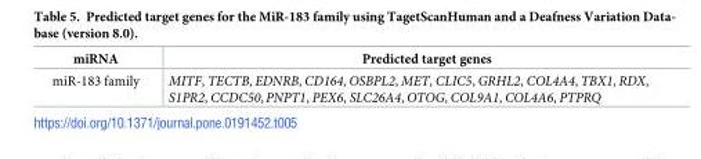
<table><thead><tr><td>miRNA</td><td>Predicted target genes</td></tr></thead><tbody><tr><td>miR-183 family</td><td>MITF, TECTB, EDNRB, CD164, OSBPL2, MET, CLIC5, GRHL2, COL4A4, TBX1, RDX, S1PR2, CCDC50,PNPT1, PEX6, SLC26A4, OTOG, COL9A1, COL4A6, PTPRQ</td></tr></tbody></table>